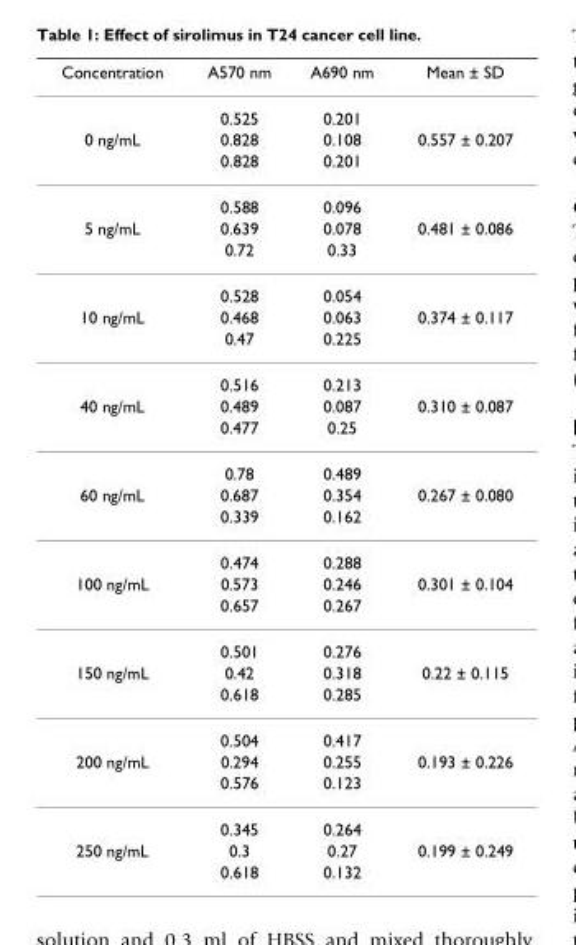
<table><thead><tr><td>Concentration</td><td>A570 nm</td><td>A690 nm</td><td>Mean ± SD</td></tr></thead><tbody><tr><td></td><td>0.525</td><td>0.201</td><td></td></tr><tr><td rowspan="3">0 ng/mL</td><td>0.828</td><td>0.108</td><td>0.557 ± 0.207</td></tr><tr><td>0.828</td><td>0.201</td><td></td></tr><tr><td>0.588</td><td>0.096</td><td></td></tr><tr><td rowspan="3">5 ng/mL</td><td>0.639</td><td>0.078</td><td>0.481 ± 0.086</td></tr><tr><td>0.72</td><td>0.33</td><td></td></tr><tr><td>0.528</td><td>0.054</td><td></td></tr><tr><td rowspan="3">10 ng/mL</td><td>0.468</td><td>0.063</td><td>0.374 ± 0.117</td></tr><tr><td>0.47</td><td>0.225</td><td></td></tr><tr><td>0.516</td><td>0.213</td><td></td></tr><tr><td rowspan="3">40 ng/mL</td><td>0.489</td><td>0.087</td><td>0.310 ± 0.087</td></tr><tr><td>0.477</td><td>0.25</td><td></td></tr><tr><td>0.78</td><td>0.489</td><td></td></tr><tr><td rowspan="3">60 ng/mL</td><td>0.687</td><td>0.354</td><td>0.267 ± 0.080</td></tr><tr><td>0.339</td><td>0.162</td><td></td></tr><tr><td>0.474</td><td>0.288</td><td></td></tr><tr><td rowspan="3">100 ng/mL</td><td>0.573</td><td>0.246</td><td>0.301 ± 0.104</td></tr><tr><td>0.657</td><td>0.267</td><td></td></tr><tr><td>0.501</td><td>0.276</td><td></td></tr><tr><td rowspan="3">150 ng/mL</td><td>0.42</td><td>0.318</td><td>0.22 ± 0.115</td></tr><tr><td>0.618</td><td>0.285</td><td></td></tr><tr><td>0.504</td><td>0.417</td><td></td></tr><tr><td rowspan="3">200 ng/mL</td><td>0.294</td><td>0.255</td><td>0.193 ± 0.226</td></tr><tr><td>0.576</td><td>0.123</td><td></td></tr><tr><td>0.345</td><td>0.264</td><td></td></tr><tr><td rowspan="2">250 ng/mL</td><td>0.3</td><td>0.27</td><td>0.199 ± 0.249</td></tr><tr><td>0.618</td><td>0.132</td><td></td></tr></tbody></table>